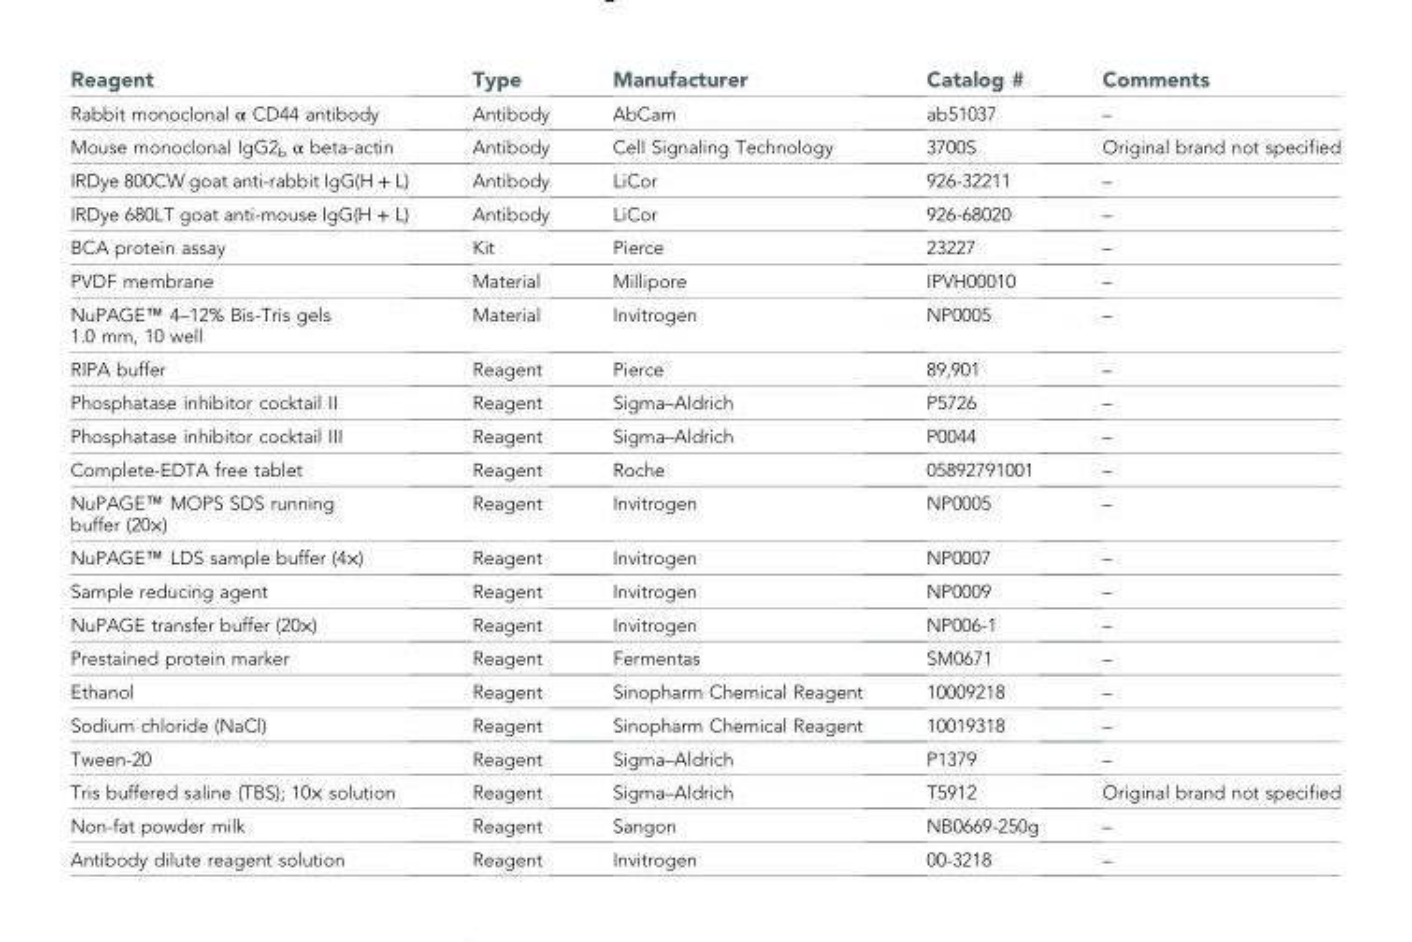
<table><thead><tr><td>Reagent</td><td>Type</td><td>Manufacturer</td><td>Catalog #</td><td>Comments</td></tr></thead><tbody><tr><td>Rabbit monoclonal α CD44 antibody</td><td>Antibody</td><td>AbCam</td><td>ab51037</td><td>–</td></tr><tr><td>Mouse monoclonal IgG2<sub>b</sub> α beta-actin</td><td>Antibody</td><td>Cell Signaling Technology</td><td>3700S</td><td>Original brand not specified</td></tr><tr><td>IRDye 800CW goat anti-rabbit IgG(H + L)</td><td>Antibody</td><td>LiCor</td><td>926-32211</td><td>–</td></tr><tr><td>IRDye 680LT goat anti-mouse IgG(H + L)</td><td>Antibody</td><td>LiCor</td><td>926-68020</td><td>–</td></tr><tr><td>BCA protein assay</td><td>Kit</td><td>Pierce</td><td>23227</td><td>–</td></tr><tr><td>PVDF membrane</td><td>Material</td><td>Millipore</td><td>IPVH00010</td><td>–</td></tr><tr><td>NuPAGE™ 4–12% Bis-Tris gels 1.0 mm, 10 well</td><td>Material</td><td>Invitrogen</td><td>NP0005</td><td>–</td></tr><tr><td>RIPA buffer</td><td>Reagent</td><td>Pierce</td><td>89,901</td><td>–</td></tr><tr><td>Phosphatase inhibitor cocktail II</td><td>Reagent</td><td>Sigma–Aldrich</td><td>P5726</td><td>–</td></tr><tr><td>Phosphatase inhibitor cocktail III</td><td>Reagent</td><td>Sigma–Aldrich</td><td>P0044</td><td>–</td></tr><tr><td>Complete-EDTA free tablet</td><td>Reagent</td><td>Roche</td><td>05892791001</td><td>–</td></tr><tr><td>NuPAGE™ MOPS SDS running buffer (20×)</td><td>Reagent</td><td>Invitrogen</td><td>NP0005</td><td>–</td></tr><tr><td>NuPAGE™ LDS sample buffer (4×)</td><td>Reagent</td><td>Invitrogen</td><td>NP0007</td><td>–</td></tr><tr><td>Sample reducing agent</td><td>Reagent</td><td>Invitrogen</td><td>NP0009</td><td>–</td></tr><tr><td>NuPAGE transfer buffer (20×)</td><td>Reagent</td><td>Invitrogen</td><td>NP006-1</td><td>–</td></tr><tr><td>Prestained protein marker</td><td>Reagent</td><td>Fermentas</td><td>SM0671</td><td>–</td></tr><tr><td>Ethanol</td><td>Reagent</td><td>Sinopharm Chemical Reagent</td><td>10009218</td><td>–</td></tr><tr><td>Sodium chloride (NaCl)</td><td>Reagent</td><td>Sinopharm Chemical Reagent</td><td>10019318</td><td>–</td></tr><tr><td>Tween-20</td><td>Reagent</td><td>Sigma–Aldrich</td><td>P1379</td><td>–</td></tr><tr><td>Tris buffered saline (TBS); 10× solution</td><td>Reagent</td><td>Sigma–Aldrich</td><td>T5912</td><td>Original brand not specified</td></tr><tr><td>Non-fat powder milk</td><td>Reagent</td><td>Sangon</td><td>NB0669-250g</td><td>–</td></tr><tr><td>Antibody dilute reagent solution</td><td>Reagent</td><td>Invitrogen</td><td>00-3218</td><td>–</td></tr></tbody></table>